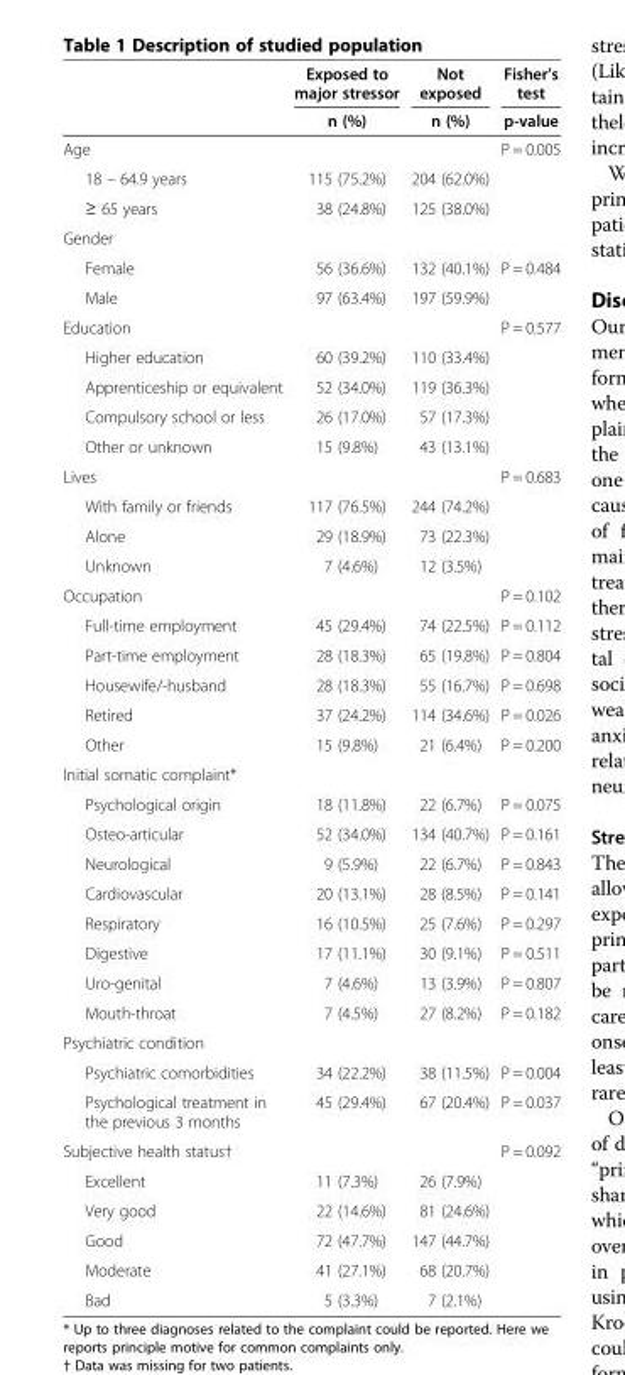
<table><thead><tr><td rowspan="2"></td><td rowspan="2">Exposed to major stressor n (%)</td><td rowspan="2">Not exposed n (%)</td><td rowspan="2">Fisher’s test p-value</td></tr><tr></tr></thead><tbody><tr><td>Age</td><td></td><td></td><td>P = 0.005</td></tr><tr><td>18 – 64.9 years</td><td>115 (75.2%)</td><td>204 (62.0%)</td><td></td></tr><tr><td>≥ 65 years</td><td>38 (24.8%)</td><td>125 (38.0%)</td><td></td></tr><tr><td colspan="4">Gender</td></tr><tr><td>Female</td><td>56 (36.6%)</td><td>132 (40.1%)</td><td>P = 0.484</td></tr><tr><td>Male</td><td>97 (63.4%)</td><td>197 (59.9%)</td><td></td></tr><tr><td>Education</td><td></td><td></td><td>P = 0.577</td></tr><tr><td>Higher education</td><td>60 (39.2%)</td><td>110 (33.4%)</td><td></td></tr><tr><td>Apprenticeship or equivalent</td><td>52 (34.0%)</td><td>119 (36.3%)</td><td></td></tr><tr><td>Compulsory school or less</td><td>26 (17.0%)</td><td>57 (17.3%)</td><td></td></tr><tr><td>Other or unknown</td><td>15 (9.8%)</td><td>43 (13.1%)</td><td></td></tr><tr><td>Lives</td><td></td><td></td><td>P = 0.683</td></tr><tr><td>With family or friends</td><td>117 (76.5%)</td><td>244 (74.2%)</td><td></td></tr><tr><td>Alone</td><td>29 (18.9%)</td><td>73 (22.3%)</td><td></td></tr><tr><td>Unknown</td><td>7 (4.6%)</td><td>12 (3.5%)</td><td></td></tr><tr><td>Occupation</td><td></td><td></td><td>P = 0.102</td></tr><tr><td>Full-time employment</td><td>45 (29.4%)</td><td>74 (22.5%)</td><td>P = 0.112</td></tr><tr><td>Part-time employment</td><td>28 (18.3%)</td><td>65 (19.8%)</td><td>P = 0.804</td></tr><tr><td>Housewife/-husband</td><td>28 (18.3%)</td><td>55 (16.7%)</td><td>P = 0.698</td></tr><tr><td>Retired</td><td>37 (24.2%)</td><td>114 (34.6%)</td><td>P = 0.026</td></tr><tr><td>Other</td><td>15 (9.8%)</td><td>21 (6.4%)</td><td>P = 0.200</td></tr><tr><td colspan="4">Initial somatic complaint*</td></tr><tr><td>Psychological origin</td><td>18 (11.8%)</td><td>22 (6.7%)</td><td>P = 0.075</td></tr><tr><td>Osteo-articular</td><td>52 (34.0%)</td><td>134 (40.7%)</td><td>P = 0.161</td></tr><tr><td>Neurological</td><td>9 (5.9%)</td><td>22 (6.7%)</td><td>P = 0.843</td></tr><tr><td>Cardiovascular</td><td>20 (13.1%)</td><td>28 (8.5%)</td><td>P = 0.141</td></tr><tr><td>Respiratory</td><td>16 (10.5%)</td><td>25 (7.6%)</td><td>P = 0.297</td></tr><tr><td>Digestive</td><td>17 (11.1%)</td><td>30 (9.1%)</td><td>P = 0.511</td></tr><tr><td>Uro-genital</td><td>7 (4.6%)</td><td>13 (3.9%)</td><td>P = 0.807</td></tr><tr><td>Mouth-throat</td><td>7 (4.5%)</td><td>27 (8.2%)</td><td>P = 0.182</td></tr><tr><td colspan="4">Psychiatric condition</td></tr><tr><td>Psychiatric comorbidities</td><td>34 (22.2%)</td><td>38 (11.5%)</td><td>P = 0.004</td></tr><tr><td>Psychological treatment in the previous 3 months</td><td>45 (29.4%)</td><td>67 (20.4%)</td><td>P = 0.037</td></tr><tr><td>Subjective health status†</td><td></td><td></td><td>P = 0.092</td></tr><tr><td>Excellent</td><td>11 (7.3%)</td><td>26 (7.9%)</td><td></td></tr><tr><td>Very good</td><td>22 (14.6%)</td><td>81 (24.6%)</td><td></td></tr><tr><td>Good</td><td>72 (47.7%)</td><td>147 (44.7%)</td><td></td></tr><tr><td>Moderate</td><td>41 (27.1%)</td><td>68 (20.7%)</td><td></td></tr><tr><td>Bad</td><td>5 (3.3%)</td><td>7 (2.1%)</td><td></td></tr></tbody></table>